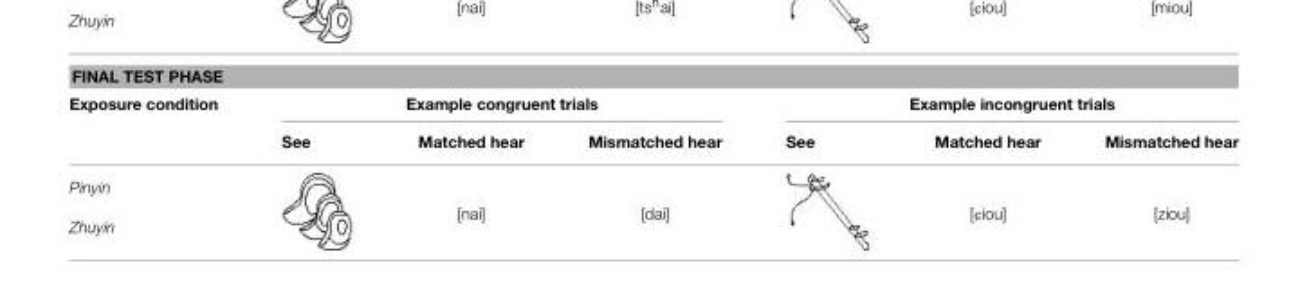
<table><thead><tr><td colspan="7">FINAL TEST PHASE</td></tr><tr><td rowspan="2">Exposure condition</td><td colspan="3">Example congruent trials</td><td colspan="3">Example incongruent trials</td></tr><tr><td>See</td><td>Matched hear</td><td>Mismatched hear</td><td>See</td><td>Matched hear</td><td>Mismatched hear</td></tr></thead><tbody><tr><td>Pinyin</td><td></td><td>[nai]</td><td>[dai]</td><td></td><td>[Ciou]</td><td>[ziou]</td></tr></tbody></table>